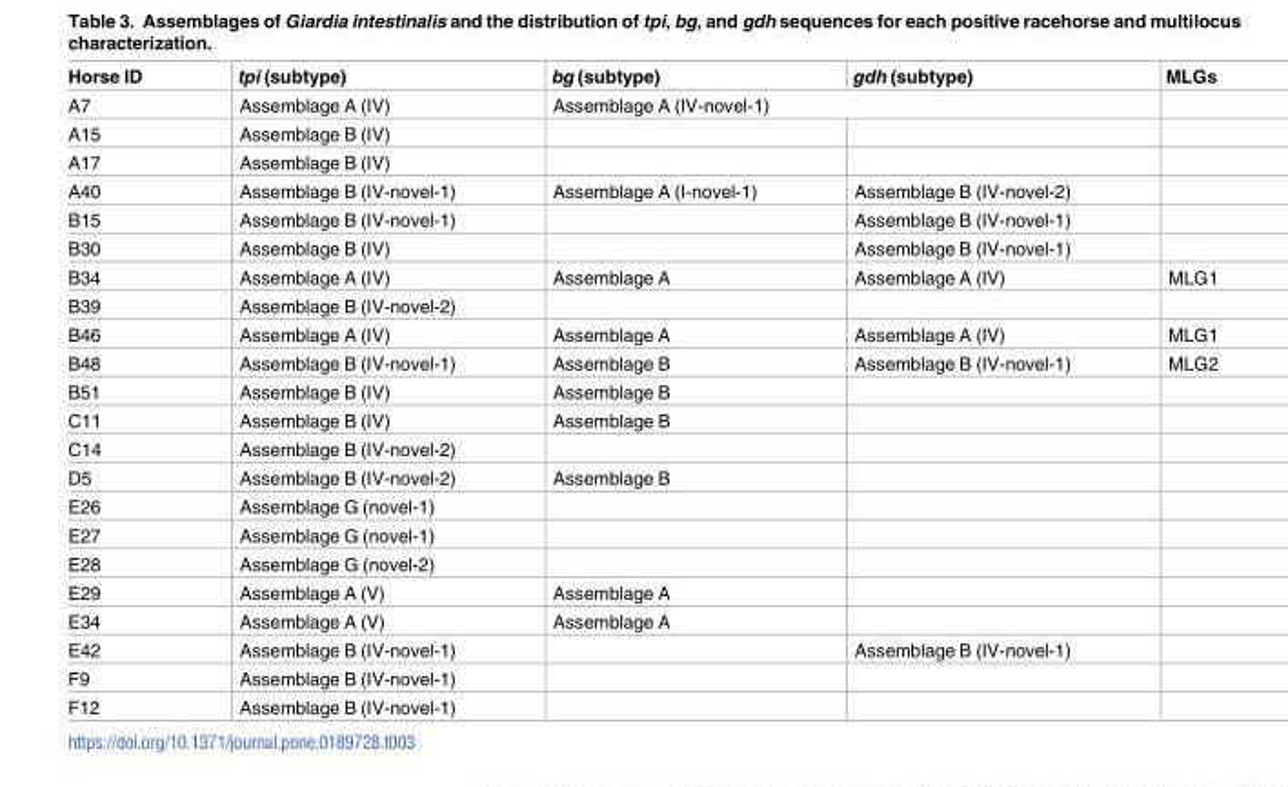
<table><thead><tr><td>Horse ID</td><td>tpi (subtype)</td><td>bg (subtype)</td><td>gdh (subtype)</td><td>MLGs</td></tr></thead><tbody><tr><td>A7</td><td>Assemblage A (IV)</td><td colspan="2">Assemblage A (IV-novel-1)</td><td></td></tr><tr><td>A15</td><td>Assemblage B (IV)</td><td></td><td></td><td></td></tr><tr><td>A17</td><td>Assemblage B (IV)</td><td></td><td></td><td></td></tr><tr><td>A40</td><td>Assemblage B (IV-novel-1)</td><td>Assemblage A (I-novel-1)</td><td>Assemblage B (IV-novel-2)</td><td></td></tr><tr><td>B15</td><td>Assemblage B (IV-novel-1)</td><td></td><td>Assemblage B (IV-novel-1)</td><td></td></tr><tr><td>B30</td><td>Assemblage B (IV)</td><td></td><td>Assemblage B (IV-novel-1)</td><td></td></tr><tr><td>B34</td><td>Assemblage A (IV)</td><td>Assemblage A</td><td>Assemblage A (IV)</td><td>MLG1</td></tr><tr><td>B39</td><td>Assemblage B (IV-novel-2)</td><td></td><td></td><td></td></tr><tr><td>B46</td><td>Assemblage A (IV)</td><td>Assemblage A</td><td>Assemblage A (IV)</td><td>MLG1</td></tr><tr><td>B48</td><td>Assemblage B (IV-novel-1)</td><td>Assemblage B</td><td>Assemblage B (IV-novel-1)</td><td>MLG2</td></tr><tr><td>B51</td><td>Assemblage B (IV)</td><td>Assemblage B</td><td></td><td></td></tr><tr><td>C11</td><td>Assemblage B (IV)</td><td>Assemblage B</td><td></td><td></td></tr><tr><td>C14</td><td>Assemblage B (IV-novel-2)</td><td></td><td></td><td></td></tr><tr><td>D5</td><td>Assemblage B (IV-novel-2)</td><td>Assemblage B</td><td></td><td></td></tr><tr><td>E26</td><td>Assemblage G (novel-1)</td><td></td><td></td><td></td></tr><tr><td>E27</td><td>Assemblage G (novel-1)</td><td></td><td></td><td></td></tr><tr><td>E28</td><td>Assemblage G (novel-2)</td><td></td><td></td><td></td></tr><tr><td>E29</td><td>Assemblage A (V)</td><td>Assemblage A</td><td></td><td></td></tr><tr><td>E34</td><td>Assemblage A (V)</td><td>Assemblage A</td><td></td><td></td></tr><tr><td>E42</td><td>Assemblage B (IV-novel-1)</td><td></td><td>Assemblage B (IV-novel-1)</td><td></td></tr><tr><td>F9</td><td>Assemblage B (IV-novel-1)</td><td></td><td></td><td></td></tr><tr><td>F12</td><td>Assemblage B (IV-novel-1)</td><td></td><td></td><td></td></tr></tbody></table>